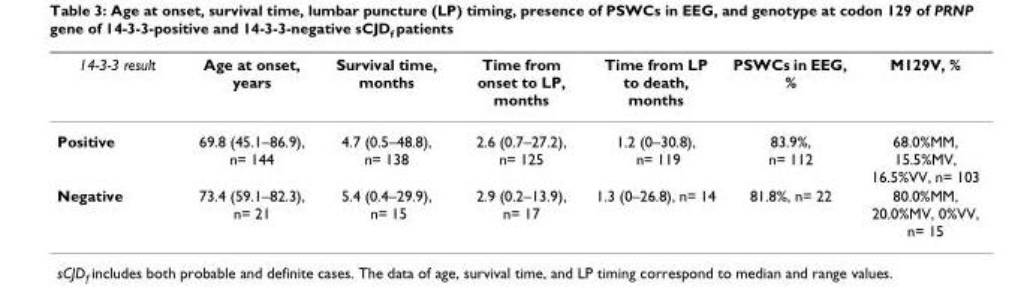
<table><thead><tr><td>14-3-3 result</td><td>Age at onset, years</td><td>Survival time, months</td><td>Time from onset to LP, months</td><td>Time from LP to death, months</td><td>PSWCs in EEG, %</td><td>M129V, %</td></tr></thead><tbody><tr><td>Positive</td><td>69.8 (45.1–86.9), n= 144</td><td>4.7 (0.5–48.8), n= 138</td><td>2.6 (0.7–27.2), n= 125</td><td>1.2 (0–30.8), n= 119</td><td>83.9%, n= 112</td><td>68.0%MM, 15.5%MV, 16.5%VV, n= 103</td></tr><tr><td>Negative</td><td>73.4 (59.1–82.3), n= 21</td><td>5.4 (0.4–29.9), n= 15</td><td>2.9 (0.2–13.9), n= 17</td><td>1.3 (0–26.8), n= 14</td><td>81.8%, n= 22</td><td>80.0%MM, 20.0%MV, 0%VV, n= 15</td></tr></tbody></table>